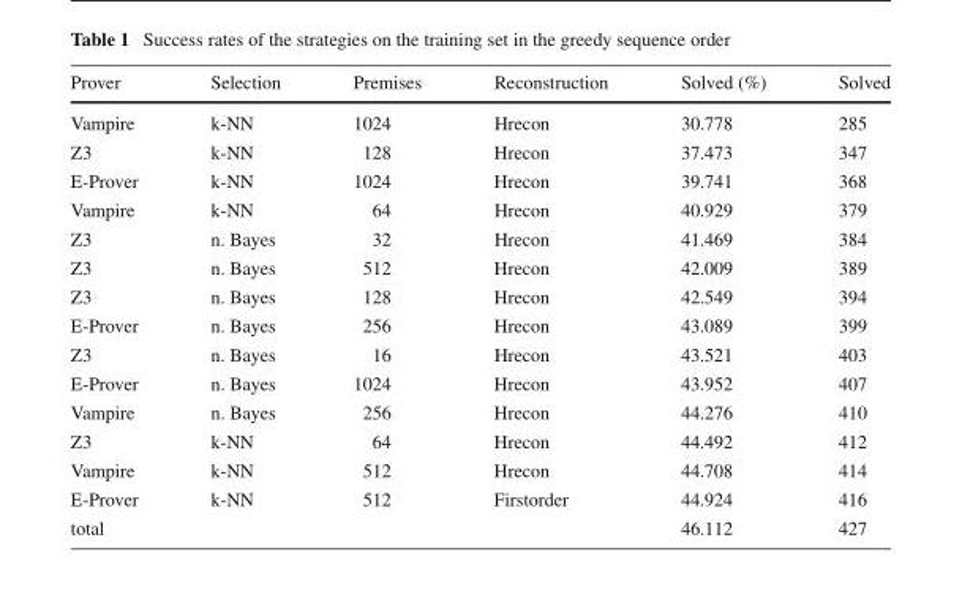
<table><thead><tr><td>Prover</td><td>Selection</td><td>Premises</td><td>Reconstruction</td><td>Solved (%)</td><td>Solved</td></tr></thead><tbody><tr><td>Vampire</td><td>k-NN</td><td>1024</td><td>Hrecon</td><td>30.778</td><td>285</td></tr><tr><td>Z3</td><td>k-NN</td><td>128</td><td>Hrecon</td><td>37.473</td><td>347</td></tr><tr><td>E-Prover</td><td>k-NN</td><td>1024</td><td>Hrecon</td><td>39.741</td><td>368</td></tr><tr><td>Vampire</td><td>k-NN</td><td>64</td><td>Hrecon</td><td>40.929</td><td>379</td></tr><tr><td>Z3</td><td>n. Bayes</td><td>32</td><td>Hrecon</td><td>41.469</td><td>384</td></tr><tr><td>Z3</td><td>n. Bayes</td><td>512</td><td>Hrecon</td><td>42.009</td><td>389</td></tr><tr><td>Z3</td><td>n. Bayes</td><td>128</td><td>Hrecon</td><td>42.549</td><td>394</td></tr><tr><td>E-Prover</td><td>n. Bayes</td><td>256</td><td>Hrecon</td><td>43.089</td><td>399</td></tr><tr><td>Z3</td><td>n. Bayes</td><td>16</td><td>Hrecon</td><td>43.521</td><td>403</td></tr><tr><td>E-Prover</td><td>n. Bayes</td><td>1024</td><td>Hrecon</td><td>43.952</td><td>407</td></tr><tr><td>Vampire</td><td>n. Bayes</td><td>256</td><td>Hrecon</td><td>44.276</td><td>410</td></tr><tr><td>Z3</td><td>k-NN</td><td>64</td><td>Hrecon</td><td>44.492</td><td>412</td></tr><tr><td>Vampire</td><td>k-NN</td><td>512</td><td>Hrecon</td><td>44.708</td><td>414</td></tr><tr><td>E-Prover</td><td>k-NN</td><td>512</td><td>Firstorder</td><td>44.924</td><td>416</td></tr><tr><td>total</td><td></td><td></td><td></td><td>46.112</td><td>427</td></tr></tbody></table>